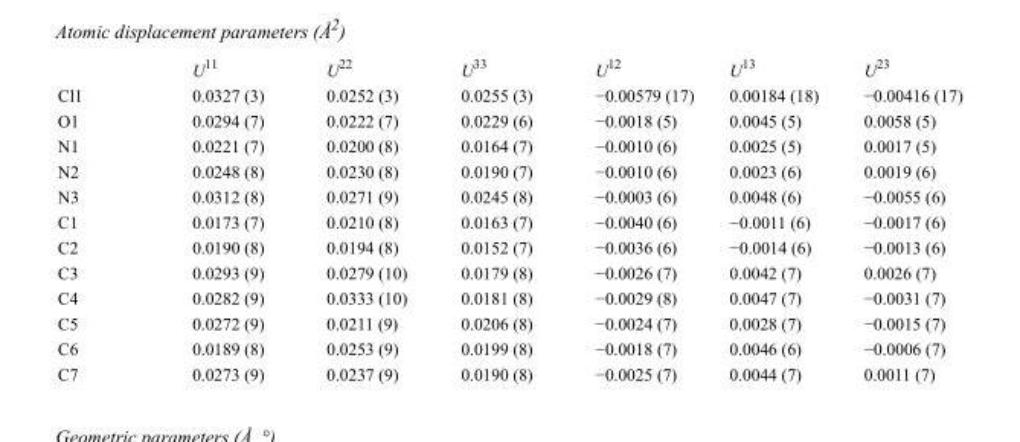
<table><thead><tr><td></td><td>U<sup>11</sup></td><td>U<sup>22</sup></td><td>U<sup>33</sup></td><td>U<sup>12</sup></td><td>U<sup>13</sup></td><td>U<sup>23</sup></td></tr></thead><tbody><tr><td>Cl1</td><td>0.0327 (3)</td><td>0.0252 (3)</td><td>0.0255 (3)</td><td>−0.00579 (17)</td><td>0.00184 (18)</td><td>−0.00416 (17)</td></tr><tr><td>O1</td><td>0.0294 (7)</td><td>0.0222 (7)</td><td>0.0229 (6)</td><td>−0.0018 (5)</td><td>0.0045 (5)</td><td>0.0058 (5)</td></tr><tr><td>N1</td><td>0.0221 (7)</td><td>0.0200 (8)</td><td>0.0164 (7)</td><td>−0.0010 (6)</td><td>0.0025 (5)</td><td>0.0017 (5)</td></tr><tr><td>N2</td><td>0.0248 (8)</td><td>0.0230 (8)</td><td>0.0190 (7)</td><td>−0.0010 (6)</td><td>0.0023 (6)</td><td>0.0019 (6)</td></tr><tr><td>N3</td><td>0.0312 (8)</td><td>0.0271 (9)</td><td>0.0245 (8)</td><td>−0.0003 (6)</td><td>0.0048 (6)</td><td>−0.0055 (6)</td></tr><tr><td>C1</td><td>0.0173 (7)</td><td>0.0210 (8)</td><td>0.0163 (7)</td><td>−0.0040 (6)</td><td>−0.0011 (6)</td><td>−0.0017 (6)</td></tr><tr><td>C2</td><td>0.0190 (8)</td><td>0.0194 (8)</td><td>0.0152 (7)</td><td>−0.0036 (6)</td><td>−0.0014 (6)</td><td>−0.0013 (6)</td></tr><tr><td>C3</td><td>0.0293 (9)</td><td>0.0279 (10)</td><td>0.0179 (8)</td><td>−0.0026 (7)</td><td>0.0042 (7)</td><td>0.0026 (7)</td></tr><tr><td>C4</td><td>0.0282 (9)</td><td>0.0333 (10)</td><td>0.0181 (8)</td><td>−0.0029 (8)</td><td>0.0047 (7)</td><td>−0.0031 (7)</td></tr><tr><td>C5</td><td>0.0272 (9)</td><td>0.0211 (9)</td><td>0.0206 (8)</td><td>−0.0024 (7)</td><td>0.0028 (7)</td><td>−0.0015 (7)</td></tr><tr><td>C6</td><td>0.0189 (8)</td><td>0.0253 (9)</td><td>0.0199 (8)</td><td>−0.0018 (7)</td><td>0.0046 (6)</td><td>−0.0006 (7)</td></tr><tr><td>C7</td><td>0.0273 (9)</td><td>0.0237 (9)</td><td>0.0190 (8)</td><td>−0.0025 (7)</td><td>0.0044 (7)</td><td>0.0011 (7)</td></tr></tbody></table>